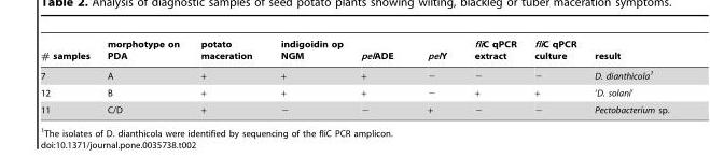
<table><thead><tr><td># samples</td><td>morphotype on PDA</td><td>potato maceration</td><td>indigoidin op NGM</td><td>pelADE</td><td>pelY</td><td>fliC qPCR extract</td><td>fliC qPCR culture</td><td>result</td></tr></thead><tbody><tr><td>7</td><td>A</td><td>+</td><td>+</td><td>+</td><td>−</td><td>−</td><td>−</td><td>D. dianthicola1</td></tr><tr><td>12</td><td>B</td><td>+</td><td>+</td><td>+</td><td>−</td><td>+</td><td>+</td><td>‘D. solani’</td></tr><tr><td>11</td><td>C/D</td><td>+</td><td>−</td><td>−</td><td>+</td><td>−</td><td>−</td><td>Pectobacterium sp.</td></tr></tbody></table>